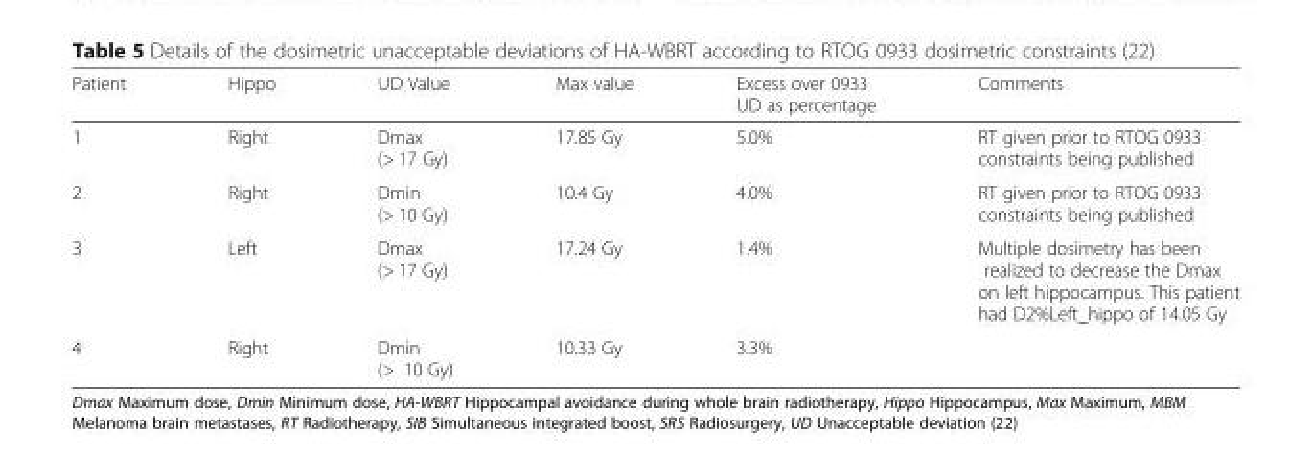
<table><thead><tr><td>Patient</td><td>Hippo</td><td>UD Value</td><td>Max value</td><td>Excess over 0933 UD as percentage</td><td>Comments</td></tr></thead><tbody><tr><td>1</td><td>Right</td><td>Dmax (&gt; 17 Gy)</td><td>17.85 Gy</td><td>5.0%</td><td>RT given prior to RTOG 0933 constraints being published</td></tr><tr><td>2</td><td>Right</td><td>Dmin (&gt; 10 Gy)</td><td>10.4 Gy</td><td>4.0%</td><td>RT given prior to RTOG 0933 constraints being published</td></tr><tr><td>3</td><td>Left</td><td>Dmax (&gt; 17 Gy)</td><td>17.24 Gy</td><td>1.4%</td><td>Multiple dosimetry has been realized to decrease the Dmax on left hippocampus. This patient had D2%Left_hippo of 14.05 Gy</td></tr><tr><td>4</td><td>Right</td><td>Dmin (&gt; 10 Gy)</td><td>10.33 Gy</td><td>3.3%</td><td></td></tr></tbody></table>